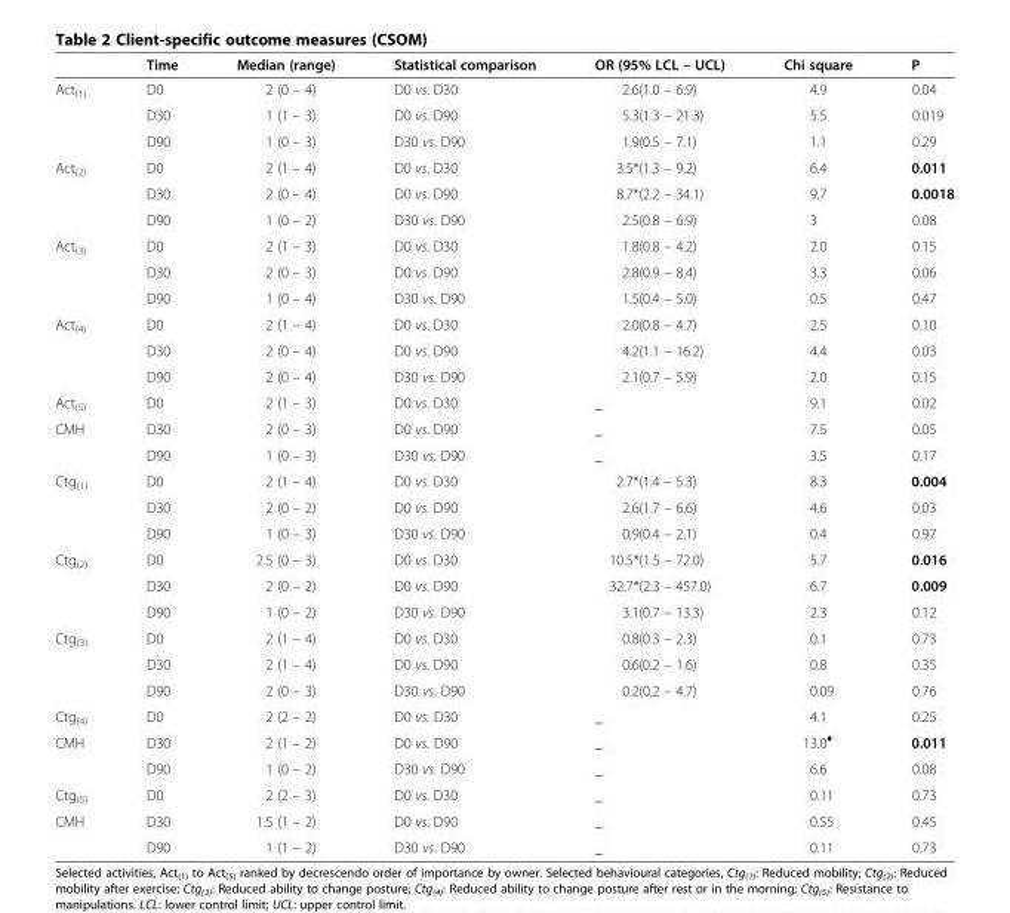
<table><thead><tr><td></td><td>Time</td><td>Median (range)</td><td>Statistical comparison</td><td>OR (95% LCL – UCL)</td><td>Chi square</td><td>P</td></tr></thead><tbody><tr><td rowspan="3">Act<sub>(1)</sub></td><td>D0</td><td>2 (0 – 4)</td><td>D0 vs. D30</td><td>2.6(1.0 – 6.9)</td><td>4.9</td><td>0.04</td></tr><tr><td>D30</td><td>1 (1 – 3)</td><td>D0 vs. D90</td><td>5.3(1.3 – 21.3)</td><td>5.5</td><td>0.019</td></tr><tr><td>D90</td><td>1 (0 – 3)</td><td>D30 vs. D90</td><td>1.9(0.5 – 7.1)</td><td>1.1</td><td>0.29</td></tr><tr><td rowspan="3">Act<sub>(2)</sub></td><td>D0</td><td>2 (1 – 4)</td><td>D0 vs. D30</td><td>3.5*(1.3 – 9.2)</td><td>6.4</td><td>0.011</td></tr><tr><td>D30</td><td>2 (0 – 4)</td><td>D0 vs. D90</td><td>8.7*(2.2 – 34.1)</td><td>9.7</td><td>0.0018</td></tr><tr><td>D90</td><td>1 (0 – 2)</td><td>D30 vs. D90</td><td>2.5(0.8 – 6.9)</td><td>3</td><td>0.08</td></tr><tr><td rowspan="3">Act<sub>(3)</sub></td><td>D0</td><td>2 (1 – 3)</td><td>D0 vs. D30</td><td>1.8(0.8 – 4.2)</td><td>2.0</td><td>0.15</td></tr><tr><td>D30</td><td>2 (0 – 3)</td><td>D0 vs. D90</td><td>2.8(0.9 – 8.4)</td><td>3.3</td><td>0.06</td></tr><tr><td>D90</td><td>1 (0 – 4)</td><td>D30 vs. D90</td><td>1.5(0.4 – 5.0)</td><td>0.5</td><td>0.47</td></tr><tr><td rowspan="3">Act<sub>(4)</sub></td><td>D0</td><td>2 (1 – 4)</td><td>D0 vs. D30</td><td>2.0(0.8 – 4.7)</td><td>2.5</td><td>0.10</td></tr><tr><td>D30</td><td>2 (0 – 4)</td><td>D0 vs. D90</td><td>4.2(1.1 – 16.2)</td><td>4.4</td><td>0.03</td></tr><tr><td>D90</td><td>2 (0 – 4)</td><td>D30 vs. D90</td><td>2.1(0.7 – 5.9)</td><td>2.0</td><td>0.15</td></tr><tr><td>Act<sub>(5)</sub></td><td>D0</td><td>2 (1 – 3)</td><td>D0 vs. D30</td><td>_</td><td>9.1</td><td>0.02</td></tr><tr><td rowspan="2">CMH</td><td>D30</td><td>2 (0 – 3)</td><td>D0 vs. D90</td><td>_</td><td>7.5</td><td>0.05</td></tr><tr><td>D90</td><td>1 (0 – 3)</td><td>D30 vs. D90</td><td>_</td><td>3.5</td><td>0.17</td></tr><tr><td rowspan="3">Ctg<sub>(1)</sub></td><td>D0</td><td>2 (1 – 4)</td><td>D0 vs. D30</td><td>2.7*(1.4 – 5.3)</td><td>8.3</td><td>0.004</td></tr><tr><td>D30</td><td>2 (0 – 2)</td><td>D0 vs. D90</td><td>2.6(1.7 – 6.6)</td><td>4.6</td><td>0.03</td></tr><tr><td>D90</td><td>1 (0 – 3)</td><td>D30 vs. D90</td><td>0.9(0.4 – 2.1)</td><td>0.4</td><td>0.97</td></tr><tr><td rowspan="3">Ctg<sub>(2)</sub></td><td>D0</td><td>2.5 (0 – 3)</td><td>D0 vs. D30</td><td>10.5*(1.5 – 72.0)</td><td>5.7</td><td>0.016</td></tr><tr><td>D30</td><td>2 (0 – 2)</td><td>D0 vs. D90</td><td>32.7*(2.3 – 457.0)</td><td>6.7</td><td>0.009</td></tr><tr><td>D90</td><td>1 (0 – 2)</td><td>D30 vs. D90</td><td>3.1(0.7 – 13.3)</td><td>2.3</td><td>0.12</td></tr><tr><td rowspan="3">Ctg<sub>(3)</sub></td><td>D0</td><td>2 (1 – 4)</td><td>D0 vs. D30</td><td>0.8(0.3 – 2.3)</td><td>0.1</td><td>0.73</td></tr><tr><td>D30</td><td>2 (1 – 4)</td><td>D0 vs. D90</td><td>0.6(0.2 – 1.6)</td><td>0.8</td><td>0.35</td></tr><tr><td>D90</td><td>2 (0 – 3)</td><td>D30 vs. D90</td><td>0.2(0.2 – 4.7)</td><td>0.09</td><td>0.76</td></tr><tr><td>Ctg<sub>(4)</sub></td><td>D0</td><td>2 (2 – 2)</td><td>D0 vs. D30</td><td>_</td><td>4.1</td><td>0.25</td></tr><tr><td rowspan="2">CMH</td><td>D30</td><td>2 (1 – 2)</td><td>D0 vs. D90</td><td>_</td><td>13.0<sup>♦</sup></td><td>0.011</td></tr><tr><td>D90</td><td>1 (0 – 2)</td><td>D30 vs. D90</td><td>_</td><td>6.6</td><td>0.08</td></tr><tr><td>Ctg<sub>(5)</sub></td><td>D0</td><td>2 (2 – 3)</td><td>D0 vs. D30</td><td>_</td><td>0.11</td><td>0.73</td></tr><tr><td rowspan="2">CMH</td><td>D30</td><td>1.5 (1 – 2)</td><td>D0 vs. D90</td><td>_</td><td>0.55</td><td>0.45</td></tr><tr><td>D90</td><td>1 (1 – 2)</td><td>D30 vs. D90</td><td>_</td><td>0.11</td><td>0.73</td></tr></tbody></table>